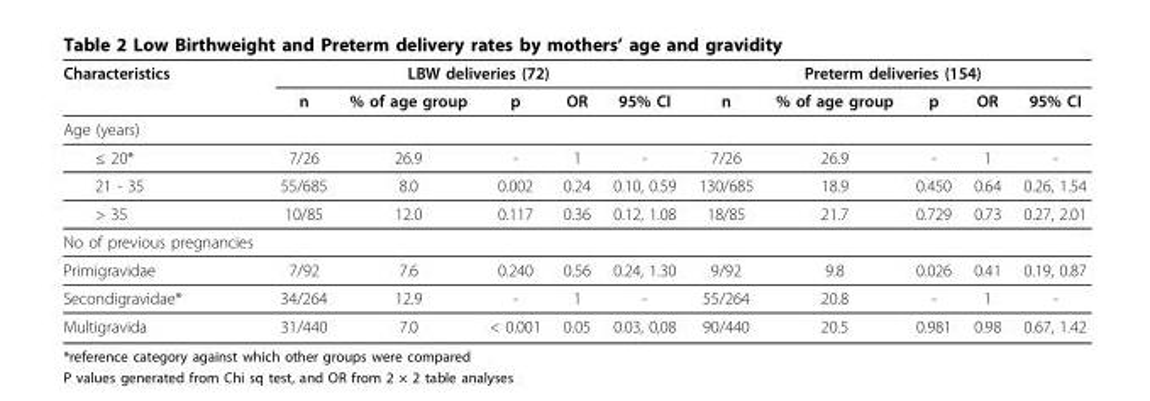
<table><thead><tr><td rowspan="2">Characteristics</td><td colspan="5">LBW deliveries (72)</td><td colspan="5">Preterm deliveries (154)</td></tr><tr><td>n</td><td>% of age group</td><td>p</td><td>OR</td><td>95% CI</td><td>n</td><td>% of age group</td><td>p</td><td>OR</td><td>95% CI</td></tr></thead><tbody><tr><td colspan="11">Age (years)</td></tr><tr><td>≤ 20*</td><td>7/26</td><td>26.9</td><td>-</td><td>1</td><td>-</td><td>7/26</td><td>26.9</td><td>-</td><td>1</td><td>-</td></tr><tr><td>21 - 35</td><td>55/685</td><td>8.0</td><td>0.002</td><td>0.24</td><td>0.10, 0.59</td><td>130/685</td><td>18.9</td><td>0.450</td><td>0.64</td><td>0.26, 1.54</td></tr><tr><td>&gt; 35</td><td>10/85</td><td>12.0</td><td>0.117</td><td>0.36</td><td>0.12, 1.08</td><td>18/85</td><td>21.7</td><td>0.729</td><td>0.73</td><td>0.27, 2.01</td></tr><tr><td colspan="11">No of previous pregnancies</td></tr><tr><td>Primigravidae</td><td>7/92</td><td>7.6</td><td>0.240</td><td>0.56</td><td>0.24, 1.30</td><td>9/92</td><td>9.8</td><td>0.026</td><td>0.41</td><td>0.19, 0.87</td></tr><tr><td>Secondigravidae*</td><td>34/264</td><td>12.9</td><td>-</td><td>1</td><td>-</td><td>55/264</td><td>20.8</td><td>-</td><td>1</td><td>-</td></tr><tr><td>Multigravida</td><td>31/440</td><td>7.0</td><td>&lt; 0.001</td><td>0.05</td><td>0.03, 0,08</td><td>90/440</td><td>20.5</td><td>0.981</td><td>0.98</td><td>0.67, 1.42</td></tr></tbody></table>